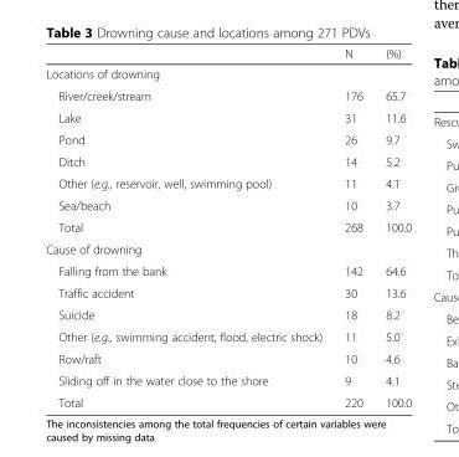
<table><thead><tr><td></td><td>N</td><td>(%)</td></tr></thead><tbody><tr><td colspan="3">Locations of drowning</td></tr><tr><td>River/creek/stream</td><td>176</td><td>65.7</td></tr><tr><td>Lake</td><td>31</td><td>11.6</td></tr><tr><td>Pond</td><td>26</td><td>9.7</td></tr><tr><td>Ditch</td><td>14</td><td>5.2</td></tr><tr><td>Other (e.g., reservoir, well, swimming pool)</td><td>11</td><td>4.1</td></tr><tr><td>Sea/beach</td><td>10</td><td>3.7</td></tr><tr><td>Total</td><td>268</td><td>100.0</td></tr><tr><td colspan="3">Cause of drowning</td></tr><tr><td>Falling from the bank</td><td>142</td><td>64.6</td></tr><tr><td>Traffic accident</td><td>30</td><td>13.6</td></tr><tr><td>Suicide</td><td>18</td><td>8.2</td></tr><tr><td>Other (e.g., swimming accident, flood, electric shock)</td><td>11</td><td>5.0</td></tr><tr><td>Row/raft</td><td>10</td><td>4.6</td></tr><tr><td>Sliding off in the water close to the shore</td><td>9</td><td>4.1</td></tr><tr><td>Total</td><td>220</td><td>100.0</td></tr></tbody></table>